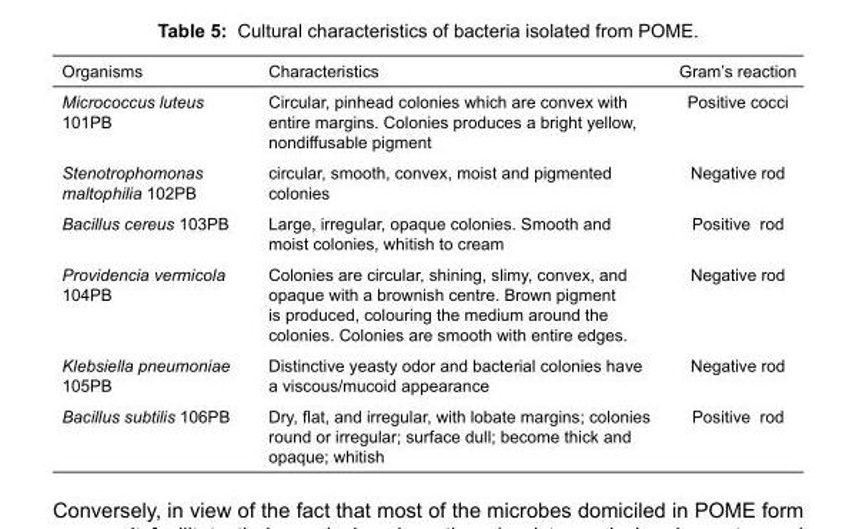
<table><thead><tr><td>Organisms</td><td>Characteristics</td><td>Gram’s reaction</td></tr></thead><tbody><tr><td>Micrococcus luteus 101PB</td><td>Circular, pinhead colonies which are convex with entire margins. Colonies produces a bright yellow, nondiffusable pigment</td><td>Positive cocci</td></tr><tr><td>Stenotrophomonas maltophilia 102PB</td><td>circular, smooth, convex, moist and pigmented colonies</td><td>Negative rod</td></tr><tr><td>Bacillus cereus 103PB</td><td>Large, irregular, opaque colonies. Smooth and moist colonies, whitish to cream</td><td>Positive rod</td></tr><tr><td>Providencia vermicola 104PB</td><td>Colonies are circular, shining, slimy, convex, and opaque with a brownish centre. Brown pigment is produced, colouring the medium around the colonies. Colonies are smooth with entire edges.</td><td>Negative rod</td></tr><tr><td>Klebsiella pneumoniae 105PB</td><td>Distinctive yeasty odor and bacterial colonies have a viscous/mucoid appearance</td><td>Negative rod</td></tr><tr><td>Bacillus subtilis 106PB</td><td>Dry, flat, and irregular, with lobate margins; colonies round or irregular; surface dull; become thick and opaque; whitish</td><td>Positive rod</td></tr></tbody></table>